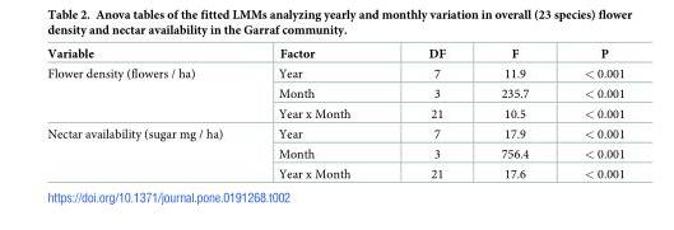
<table><thead><tr><td>Variable</td><td>Factor</td><td>DF</td><td>F</td><td>P</td></tr></thead><tbody><tr><td rowspan="3">Flower density (flowers / ha)</td><td>Year</td><td>7</td><td>11.9</td><td>&lt; 0.001</td></tr><tr><td>Month</td><td>3</td><td>235.7</td><td>&lt; 0.001</td></tr><tr><td>Year x Month</td><td>21</td><td>10.5</td><td>&lt; 0.001</td></tr><tr><td rowspan="3">Nectar availability (sugar mg / ha)</td><td>Year</td><td>7</td><td>17.9</td><td>&lt; 0.001</td></tr><tr><td>Month</td><td>3</td><td>756.4</td><td>&lt; 0.001</td></tr><tr><td>Year x Month</td><td>21</td><td>17.6</td><td>&lt; 0.001</td></tr></tbody></table>